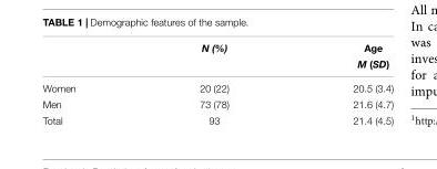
<table><thead><tr><td></td><td>N (%)</td><td>Age M (SD)</td></tr></thead><tbody><tr><td>Women</td><td>20 (22)</td><td>20.5 (3.4)</td></tr><tr><td>Men</td><td>73 (78)</td><td>21.6 (4.7)</td></tr><tr><td>Total</td><td>93</td><td>21.4 (4.5)</td></tr></tbody></table>